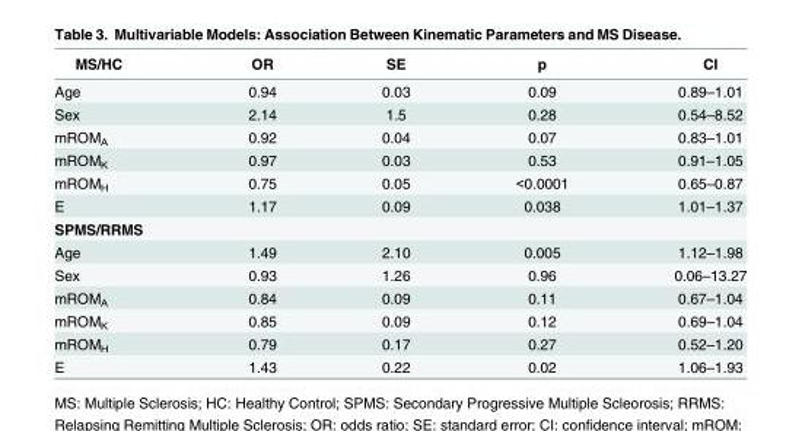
<table><thead><tr><td>MS/HC</td><td>OR</td><td>SE</td><td>p</td><td>CI</td></tr></thead><tbody><tr><td>Age</td><td>0.94</td><td>0.03</td><td>0.09</td><td>0.89–1.01</td></tr><tr><td>Sex</td><td>2.14</td><td>1.5</td><td>0.28</td><td>0.54–8.52</td></tr><tr><td>mROM<sub>A</sub></td><td>0.92</td><td>0.04</td><td>0.07</td><td>0.83–1.01</td></tr><tr><td>mROM<sub>K</sub></td><td>0.97</td><td>0.03</td><td>0.53</td><td>0.91–1.05</td></tr><tr><td>mROM<sub>H</sub></td><td>0.75</td><td>0.05</td><td>&lt;0.0001</td><td>0.65–0.87</td></tr><tr><td>E</td><td>1.17</td><td>0.09</td><td>0.038</td><td>1.01–1.37</td></tr><tr><td colspan="5">SPMS/RRMS</td></tr><tr><td>Age</td><td>1.49</td><td>2.10</td><td>0.005</td><td>1.12–1.98</td></tr><tr><td>Sex</td><td>0.93</td><td>1.26</td><td>0.96</td><td>0.06–13.27</td></tr><tr><td>mROM<sub>A</sub></td><td>0.84</td><td>0.09</td><td>0.11</td><td>0.67–1.04</td></tr><tr><td>mROM<sub>K</sub></td><td>0.85</td><td>0.09</td><td>0.12</td><td>0.69–1.04</td></tr><tr><td>mROM<sub>H</sub></td><td>0.79</td><td>0.17</td><td>0.27</td><td>0.52–1.20</td></tr><tr><td>E</td><td>1.43</td><td>0.22</td><td>0.02</td><td>1.06–1.93</td></tr></tbody></table>